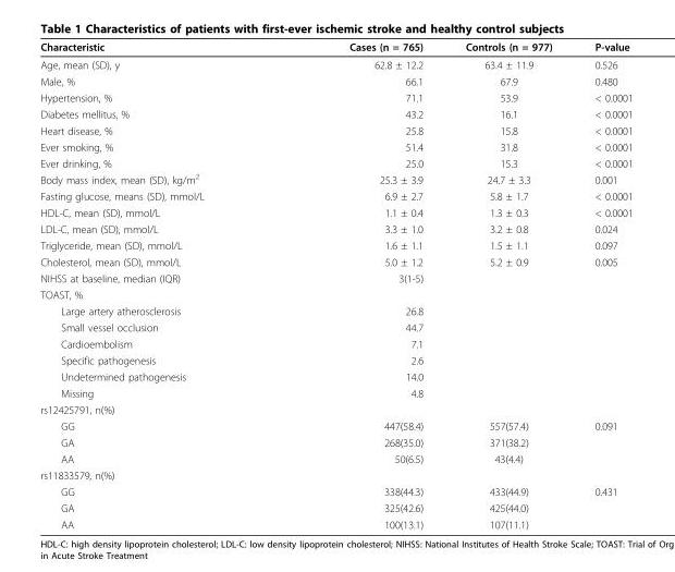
<table><thead><tr><td>Characteristic</td><td>Cases (n = 765)</td><td>Controls (n = 977)</td><td>P-value</td></tr></thead><tbody><tr><td>Age, mean (SD), y</td><td>62.8 ± 12.2</td><td>63.4 ± 11.9</td><td>0.526</td></tr><tr><td>Male, %</td><td>66.1</td><td>67.9</td><td>0.480</td></tr><tr><td>Hypertension, %</td><td>71.1</td><td>53.9</td><td>&lt; 0.0001</td></tr><tr><td>Diabetes mellitus, %</td><td>43.2</td><td>16.1</td><td>&lt; 0.0001</td></tr><tr><td>Heart disease, %</td><td>25.8</td><td>15.8</td><td>&lt; 0.0001</td></tr><tr><td>Ever smoking, %</td><td>51.4</td><td>31.8</td><td>&lt; 0.0001</td></tr><tr><td>Ever drinking, %</td><td>25.0</td><td>15.3</td><td>&lt; 0.0001</td></tr><tr><td>Body mass index, mean (SD), kg/m<sup>2</sup></td><td>25.3 ± 3.9</td><td>24.7 ± 3.3</td><td>0.001</td></tr><tr><td>Fasting glucose, means (SD), mmol/L</td><td>6.9 ± 2.7</td><td>5.8 ± 1.7</td><td>&lt; 0.0001</td></tr><tr><td>HDL-C, mean (SD), mmol/L</td><td>1.1 ± 0.4</td><td>1.3 ± 0.3</td><td>&lt; 0.0001</td></tr><tr><td>LDL-C, mean (SD), mmol/L</td><td>3.3 ± 1.0</td><td>3.2 ± 0.8</td><td>0.024</td></tr><tr><td>Triglyceride, mean (SD), mmol/L</td><td>1.6 ± 1.1</td><td>1.5 ± 1.1</td><td>0.097</td></tr><tr><td>Cholesterol, mean (SD), mmol/L</td><td>5.0 ± 1.2</td><td>5.2 ± 0.9</td><td>0.005</td></tr><tr><td>NIHSS at baseline, median (IQR)</td><td>3(1-5)</td><td></td><td></td></tr><tr><td colspan="4">TOAST, %</td></tr><tr><td>Large artery atherosclerosis</td><td>26.8</td><td></td><td></td></tr><tr><td>Small vessel occlusion</td><td>44.7</td><td></td><td></td></tr><tr><td>Cardioembolism</td><td>7.1</td><td></td><td></td></tr><tr><td>Specific pathogenesis</td><td>2.6</td><td></td><td></td></tr><tr><td>Undetermined pathogenesis</td><td>14.0</td><td></td><td></td></tr><tr><td>Missing</td><td>4.8</td><td></td><td></td></tr><tr><td colspan="4">rs12425791, n(%)</td></tr><tr><td>GG</td><td>447(58.4)</td><td>557(57.4)</td><td>0.091</td></tr><tr><td>GA</td><td>268(35.0)</td><td>371(38.2)</td><td></td></tr><tr><td>AA</td><td>50(6.5)</td><td>43(4.4)</td><td></td></tr><tr><td colspan="4">rs11833579, n(%)</td></tr><tr><td>GG</td><td>338(44.3)</td><td>433(44.9)</td><td>0.431</td></tr><tr><td>GA</td><td>325(42.6)</td><td>425(44.0)</td><td></td></tr><tr><td>AA</td><td>100(13.1)</td><td>107(11.1)</td><td></td></tr></tbody></table>